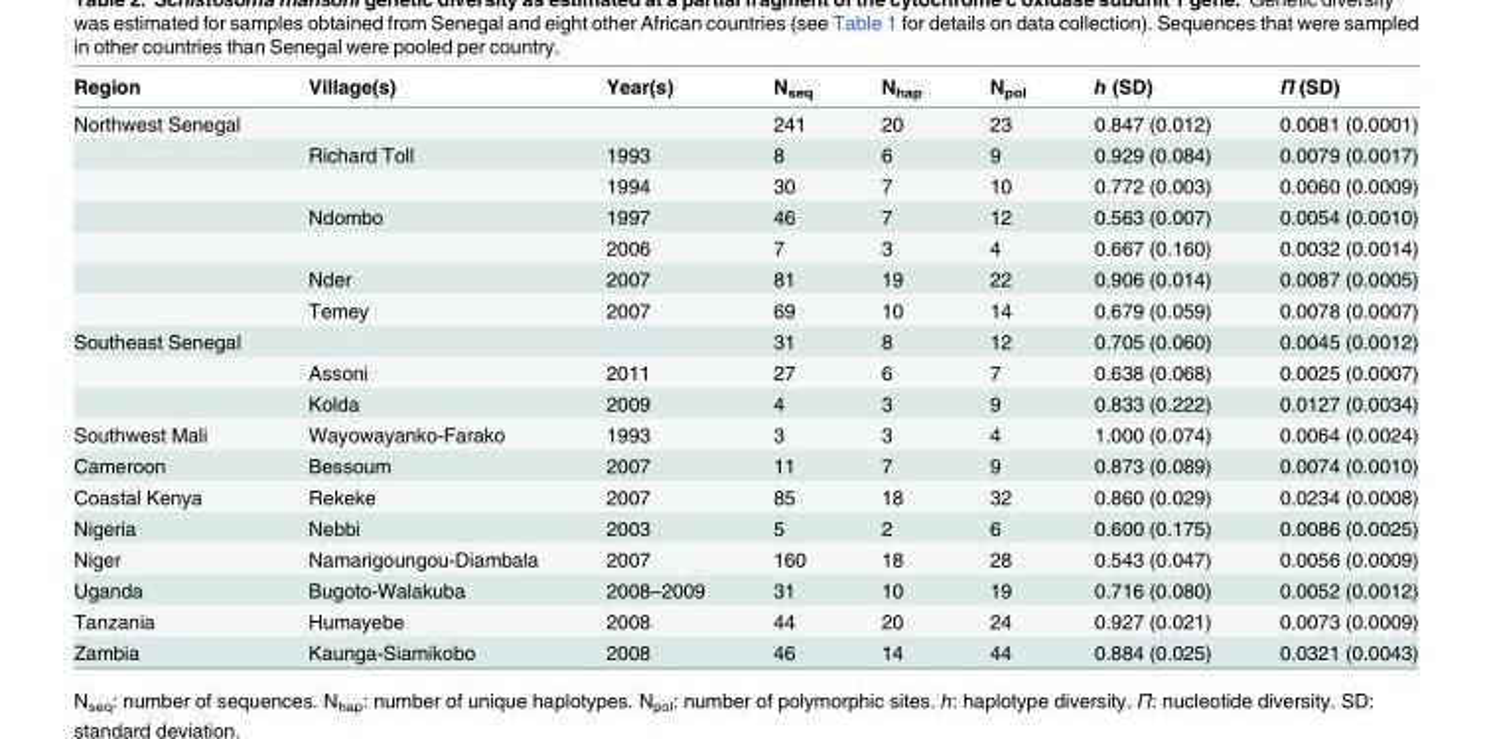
<table><thead><tr><td>Region</td><td>Village(s)</td><td>Year(s)</td><td>N<sub>seq</sub></td><td>N<sub>hap</sub></td><td>N<sub>pol</sub></td><td>h (SD)</td><td>Π (SD)</td></tr></thead><tbody><tr><td rowspan="7">Northwest Senegal</td><td></td><td></td><td>241</td><td>20</td><td>23</td><td>0.847 (0.012)</td><td>0.0081 (0.0001)</td></tr><tr><td>Richard Toll</td><td>1993</td><td>8</td><td>6</td><td>9</td><td>0.929 (0.084)</td><td>0.0079 (0.0017)</td></tr><tr><td></td><td>1994</td><td>30</td><td>7</td><td>10</td><td>0.772 (0.003)</td><td>0.0060 (0.0009)</td></tr><tr><td>Ndombo</td><td>1997</td><td>46</td><td>7</td><td>12</td><td>0.563 (0.007)</td><td>0.0054 (0.0010)</td></tr><tr><td></td><td>2006</td><td>7</td><td>3</td><td>4</td><td>0.667 (0.160)</td><td>0.0032 (0.0014)</td></tr><tr><td>Nder</td><td>2007</td><td>81</td><td>19</td><td>22</td><td>0.906 (0.014)</td><td>0.0087 (0.0005)</td></tr><tr><td>Temey</td><td>2007</td><td>69</td><td>10</td><td>14</td><td>0.679 (0.059)</td><td>0.0078 (0.0007)</td></tr><tr><td rowspan="3">Southeast Senegal</td><td></td><td></td><td>31</td><td>8</td><td>12</td><td>0.705 (0.060)</td><td>0.0045 (0.0012)</td></tr><tr><td>Assoni</td><td>2011</td><td>27</td><td>6</td><td>7</td><td>0.638 (0.068)</td><td>0.0025 (0.0007)</td></tr><tr><td>Kolda</td><td>2009</td><td>4</td><td>3</td><td>9</td><td>0.833 (0.222)</td><td>0.0127 (0.0034)</td></tr><tr><td>Southwest Mali</td><td>Wayowayanko-Farako</td><td>1993</td><td>3</td><td>3</td><td>4</td><td>1.000 (0.074)</td><td>0.0064 (0.0024)</td></tr><tr><td>Cameroon</td><td>Bessoum</td><td>2007</td><td>11</td><td>7</td><td>9</td><td>0.873 (0.089)</td><td>0.0074 (0.0010)</td></tr><tr><td>Coastal Kenya</td><td>Rekeke</td><td>2007</td><td>85</td><td>18</td><td>32</td><td>0.860 (0.029)</td><td>0.0234 (0.0008)</td></tr><tr><td>Nigeria</td><td>Nebbi</td><td>2003</td><td>5</td><td>2</td><td>6</td><td>0.600 (0.175)</td><td>0.0086 (0.0025)</td></tr><tr><td>Niger</td><td>Namarigoungou-Diambala</td><td>2007</td><td>160</td><td>18</td><td>28</td><td>0.543 (0.047)</td><td>0.0056 (0.0009)</td></tr><tr><td>Uganda</td><td>Bugoto-Walakuba</td><td>2008–2009</td><td>31</td><td>10</td><td>19</td><td>0.716 (0.080)</td><td>0.0052 (0.0012)</td></tr><tr><td>Tanzania</td><td>Humayebe</td><td>2008</td><td>44</td><td>20</td><td>24</td><td>0.927 (0.021)</td><td>0.0073 (0.0009)</td></tr><tr><td>Zambia</td><td>Kaunga-Siamikobo</td><td>2008</td><td>46</td><td>14</td><td>44</td><td>0.884 (0.025)</td><td>0.0321 (0.0043)</td></tr></tbody></table>